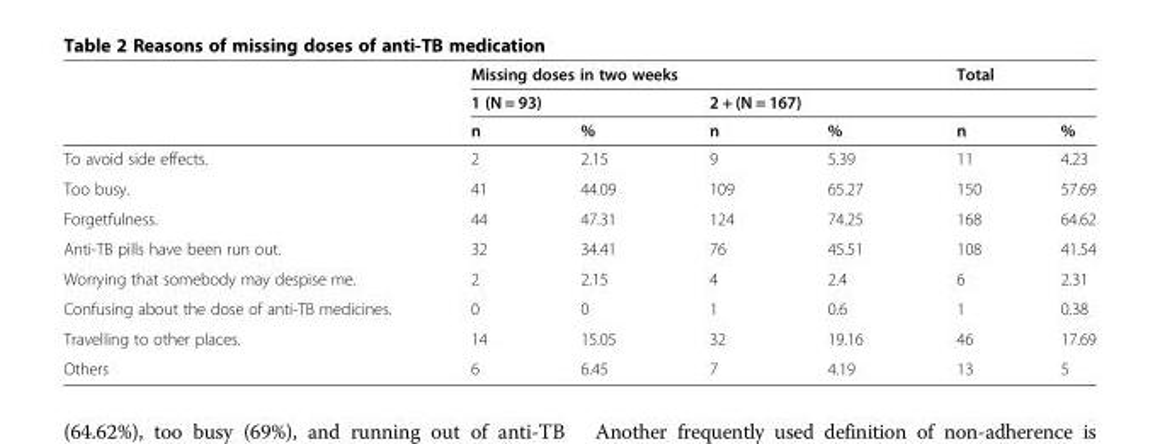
<table><thead><tr><td rowspan="3"></td><td colspan="4">Missing doses in two weeks</td><td colspan="2">Total</td></tr><tr><td colspan="2">1 (N = 93)</td><td colspan="2">2 + (N = 167)</td><td rowspan="2">n</td><td rowspan="2">%</td></tr><tr><td>n</td><td>%</td><td>n</td><td>%</td></tr></thead><tbody><tr><td>To avoid side effects.</td><td>2</td><td>2.15</td><td>9</td><td>5.39</td><td>11</td><td>4.23</td></tr><tr><td>Too busy.</td><td>41</td><td>44.09</td><td>109</td><td>65.27</td><td>150</td><td>57.69</td></tr><tr><td>Forgetfulness.</td><td>44</td><td>47.31</td><td>124</td><td>74.25</td><td>168</td><td>64.62</td></tr><tr><td>Anti-TB pills have been run out.</td><td>32</td><td>34.41</td><td>76</td><td>45.51</td><td>108</td><td>41.54</td></tr><tr><td>Worrying that somebody may despise me.</td><td>2</td><td>2.15</td><td>4</td><td>2.4</td><td>6</td><td>2.31</td></tr><tr><td>Confusing about the dose of anti-TB medicines.</td><td>0</td><td>0</td><td>1</td><td>0.6</td><td>1</td><td>0.38</td></tr><tr><td>Travelling to other places.</td><td>14</td><td>15.05</td><td>32</td><td>19.16</td><td>46</td><td>17.69</td></tr><tr><td>Others</td><td>6</td><td>6.45</td><td>7</td><td>4.19</td><td>13</td><td>5</td></tr></tbody></table>